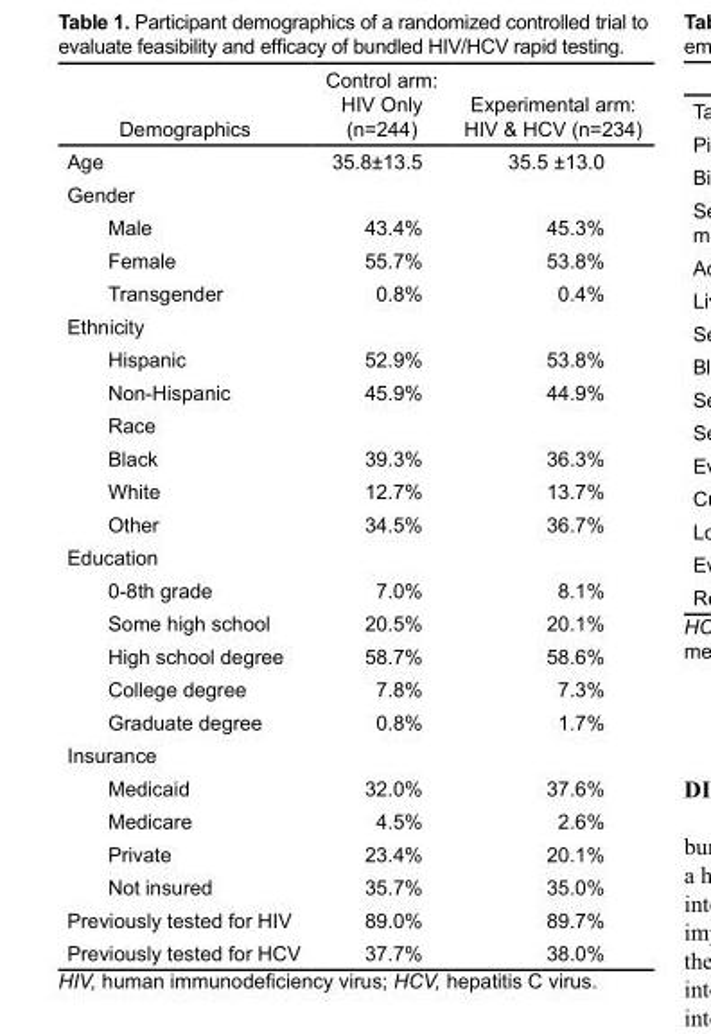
<table><thead><tr><td>Demographics</td><td>Control arm: HIV Only (n=244)</td><td>Experimental arm: HIV &amp; HCV (n=234)</td></tr></thead><tbody><tr><td>Age</td><td>35.8±13.5</td><td>35.5 ±13.0</td></tr><tr><td colspan="3">Gender</td></tr><tr><td>Male</td><td>43.4%</td><td>45.3%</td></tr><tr><td>Female</td><td>55.7%</td><td>53.8%</td></tr><tr><td>Transgender</td><td>0.8%</td><td>0.4%</td></tr><tr><td colspan="3">Ethnicity</td></tr><tr><td>Hispanic</td><td>52.9%</td><td>53.8%</td></tr><tr><td>Non-Hispanic</td><td>45.9%</td><td>44.9%</td></tr><tr><td colspan="3">Race</td></tr><tr><td>Black</td><td>39.3%</td><td>36.3%</td></tr><tr><td>White</td><td>12.7%</td><td>13.7%</td></tr><tr><td>Other</td><td>34.5%</td><td>36.7%</td></tr><tr><td colspan="3">Education</td></tr><tr><td>0-8th grade</td><td>7.0%</td><td>8.1%</td></tr><tr><td>Some high school</td><td>20.5%</td><td>20.1%</td></tr><tr><td>High school degree</td><td>58.7%</td><td>58.6%</td></tr><tr><td>College degree</td><td>7.8%</td><td>7.3%</td></tr><tr><td>Graduate degree</td><td>0.8%</td><td>1.7%</td></tr><tr><td colspan="3">Insurance</td></tr><tr><td>Medicaid</td><td>32.0%</td><td>37.6%</td></tr><tr><td>Medicare</td><td>4.5%</td><td>2.6%</td></tr><tr><td>Private</td><td>23.4%</td><td>20.1%</td></tr><tr><td>Not insured</td><td>35.7%</td><td>35.0%</td></tr><tr><td>Previously tested for HIV</td><td>89.0%</td><td>89.7%</td></tr><tr><td>Previously tested for HCV</td><td>37.7%</td><td>38.0%</td></tr></tbody></table>